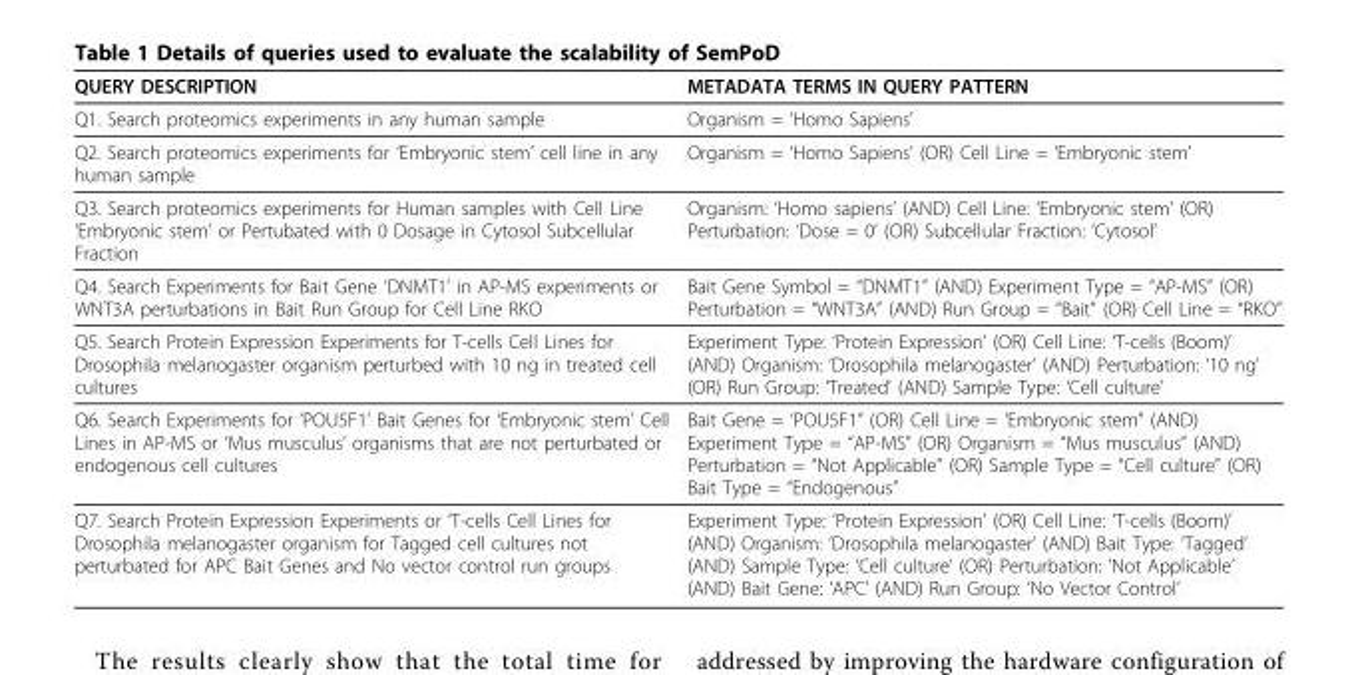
<table><thead><tr><td>QUERY DESCRIPTION</td><td>METADATA TERMS IN QUERY PATTERN</td></tr></thead><tbody><tr><td>Q1. Search proteomics experiments in any human sample</td><td>Organism = ‘Homo Sapiens’</td></tr><tr><td>Q2. Search proteomics experiments for ‘Embryonic stem’ cell line in any human sample</td><td>Organism = ‘Homo Sapiens’ (OR) Cell Line = ‘Embryonic stem’</td></tr><tr><td>Q3. Search proteomics experiments for Human samples with Cell Line ‘Embryonic stem’ or Pertubated with 0 Dosage in Cytosol Subcellular Fraction</td><td>Organism: ‘Homo sapiens’ (AND) Cell Line: ‘Embryonic stem’ (OR) Perturbation: ‘Dose = 0’ (OR) Subcellular Fraction: ‘Cytosol’</td></tr><tr><td>Q4. Search Experiments for Bait Gene ‘DNMT1’ in AP-MS experiments or WNT3A perturbations in Bait Run Group for Cell Line RKO</td><td>Bait Gene Symbol = “DNMT1” (AND) Experiment Type = “AP-MS” (OR) Perturbation = “WNT3A” (AND) Run Group = “Bait” (OR) Cell Line = “RKO”</td></tr><tr><td>Q5. Search Protein Expression Experiments for T-cells Cell Lines for Drosophila melanogaster organism perturbed with 10 ng in treated cell cultures</td><td>Experiment Type: ‘Protein Expression’ (OR) Cell Line: ‘T-cells (Boom)’ (AND) Organism: ‘Drosophila melanogaster’ (AND) Perturbation: ‘10 ng’ (OR) Run Group: ‘Treated’ (AND) Sample Type: ‘Cell culture’</td></tr><tr><td>Q6. Search Experiments for ‘POU5F1’ Bait Genes for ‘Embryonic stem’ Cell Lines in AP-MS or ‘Mus musculus’ organisms that are not perturbated or endogenous cell cultures</td><td>Bait Gene = ‘POU5F1” (OR) Cell Line = ‘Embryonic stem” (AND) Experiment Type = “AP-MS” (OR) Organism = “Mus musculus” (AND) Perturbation = “Not Applicable” (OR) Sample Type = “Cell culture” (OR) Bait Type = “Endogenous”</td></tr><tr><td>Q7. Search Protein Expression Experiments or ‘T-cells Cell Lines for Drosophila melanogaster organism for Tagged cell cultures not perturbated for APC Bait Genes and No vector control run groups</td><td>Experiment Type: ‘Protein Expression’ (OR) Cell Line: ‘T-cells (Boom)’ (AND) Organism: ‘Drosophila melanogaster’ (AND) Bait Type: ‘Tagged’ (AND) Sample Type: ‘Cell culture’ (OR) Perturbation: ‘Not Applicable’ (AND) Bait Gene: ‘APC’ (AND) Run Group: ‘No Vector Control’</td></tr></tbody></table>